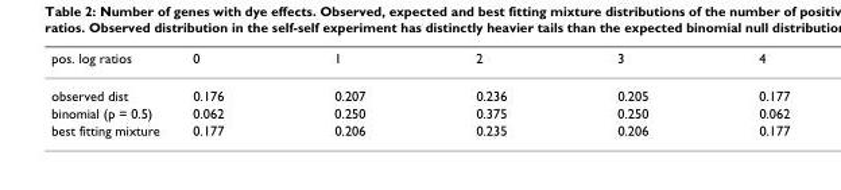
<table><thead><tr><td>pos. log ratios</td><td>0</td><td>1</td><td>2</td><td>3</td><td>4</td></tr></thead><tbody><tr><td>observed dist</td><td>0.176</td><td>0.207</td><td>0.236</td><td>0.205</td><td>0.177</td></tr><tr><td>binomial (p = 0.5)</td><td>0.062</td><td>0.250</td><td>0.375</td><td>0.250</td><td>0.062</td></tr><tr><td>best fitting mixture</td><td>0.177</td><td>0.206</td><td>0.235</td><td>0.206</td><td>0.177</td></tr></tbody></table>